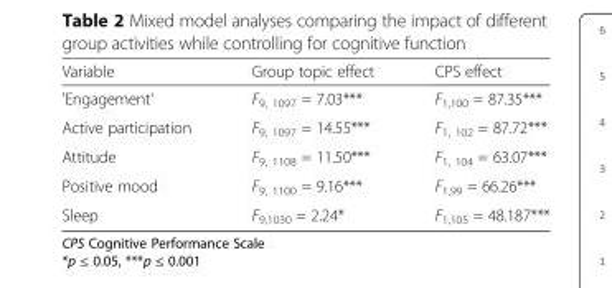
<table><thead><tr><td>Variable</td><td>Group topic effect</td><td>CPS effect</td></tr></thead><tbody><tr><td>&#x27;Engagement&#x27;</td><td>F<sub>9, 1097</sub> = 7.03***</td><td>F<sub>1,100</sub> = 87.35***</td></tr><tr><td>Active participation</td><td>F<sub>9, 1097</sub> = 14.55***</td><td>F<sub>1, 102</sub> = 87.72***</td></tr><tr><td>Attitude</td><td>F<sub>9, 1108</sub> = 11.50***</td><td>F<sub>1, 104</sub> = 63.07***</td></tr><tr><td>Positive mood</td><td>F<sub>9, 1100</sub> = 9.16***</td><td>F<sub>1,99</sub> = 66.26***</td></tr><tr><td>Sleep</td><td>F<sub>9,1030</sub> = 2.24*</td><td>F<sub>1,105</sub> = 48.187***</td></tr></tbody></table>